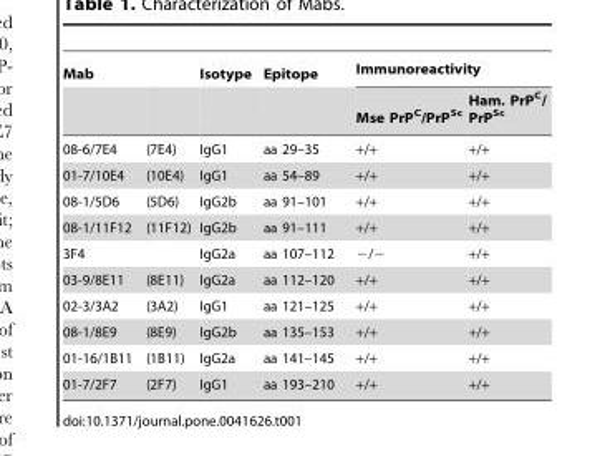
<table><thead><tr><td colspan="2">Mab</td><td rowspan="2">Isotype</td><td rowspan="2">Epitope</td><td colspan="2">Immunoreactivity</td></tr><tr><td></td><td></td><td>Mse PrP<sup>C</sup>/PrP<sup>Sc</sup></td><td>Ham. PrP<sup>C</sup>/ PrP<sup>Sc</sup></td></tr></thead><tbody><tr><td>08-6/7E4</td><td>(7E4)</td><td>IgG1</td><td>aa 29–35</td><td>+/+</td><td>+/+</td></tr><tr><td>01-7/10E4</td><td>(10E4)</td><td>IgG1</td><td>aa 54–89</td><td>+/+</td><td>+/+</td></tr><tr><td>08-1/5D6</td><td>(5D6)</td><td>IgG2b</td><td>aa 91–101</td><td>+/+</td><td>+/+</td></tr><tr><td>08-1/11F12</td><td>(11F12)</td><td>IgG2b</td><td>aa 91–111</td><td>+/+</td><td>+/+</td></tr><tr><td>3F4</td><td></td><td>IgG2a</td><td>aa 107–112</td><td>−/−</td><td>+/+</td></tr><tr><td>03-9/8E11</td><td>(8E11)</td><td>IgG2a</td><td>aa 112–120</td><td>+/+</td><td>+/+</td></tr><tr><td>02-3/3A2</td><td>(3A2)</td><td>IgG1</td><td>aa 121–125</td><td>+/+</td><td>+/+</td></tr><tr><td>08-1/8E9</td><td>(8E9)</td><td>IgG2b</td><td>aa 135–153</td><td>+/+</td><td>+/+</td></tr><tr><td>01-16/1B11</td><td>(1B11)</td><td>IgG2a</td><td>aa 141–145</td><td>+/+</td><td>+/+</td></tr><tr><td>01-7/2F7</td><td>(2F7)</td><td>IgG1</td><td>aa 193–210</td><td>+/+</td><td>+/+</td></tr></tbody></table>